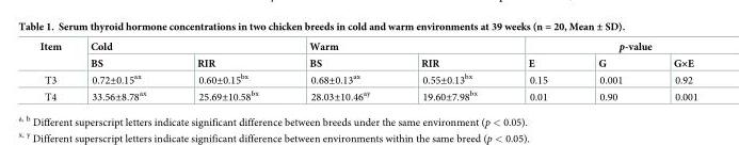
<table><thead><tr><td rowspan="2">Item</td><td colspan="2">Cold</td><td colspan="2">Warm</td><td colspan="3">p-value</td></tr><tr><td>BS</td><td>RIR</td><td>BS</td><td>RIR</td><td>E</td><td>G</td><td>G×E</td></tr></thead><tbody><tr><td>T3</td><td>0.72±0.15<sup>ax</sup></td><td>0.60±0.15<sup>bx</sup></td><td>0.68±0.13<sup>ax</sup></td><td>0.55±0.13<sup>bx</sup></td><td>0.15</td><td>0.001</td><td>0.92</td></tr><tr><td>T4</td><td>33.56±8.78<sup>ax</sup></td><td>25.69±10.58<sup>bx</sup></td><td>28.03±10.46<sup>ay</sup></td><td>19.60±7.98<sup>bx</sup></td><td>0.01</td><td>0.90</td><td>0.001</td></tr></tbody></table>